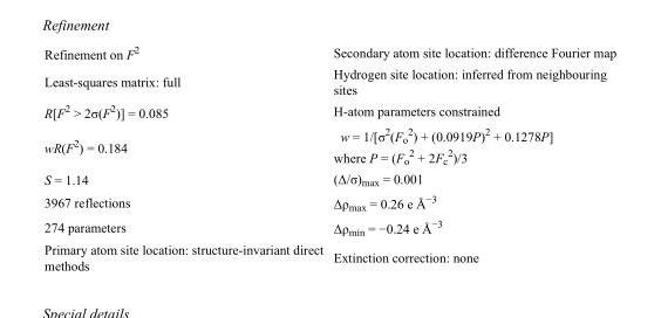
<table><tbody><tr><td>Refinement on F<sup>2</sup></td><td>Secondary atom site location: difference Fourier map</td></tr><tr><td>Least-squares matrix: full</td><td>Hydrogen site location: inferred from neighbouring sites</td></tr><tr><td>R[F<sup>2</sup> &gt; 2σ(F<sup>2</sup>)] = 0.085</td><td>H-atom parameters constrained</td></tr><tr><td>wR(F<sup>2</sup>) = 0.184</td><td>w = 1/[σ<sup>2</sup>(F<sub>o</sub> <sup>2</sup>) + (0.0919P)<sup>2</sup> + 0.1278P] where P = (F<sub>o</sub> <sup>2</sup> + 2F<sub>c</sub> <sup>2</sup>)/3</td></tr><tr><td>S = 1.14</td><td>(Δ/σ)<sub>max</sub> = 0.001</td></tr><tr><td>3967 reflections</td><td>Δρ<sub>max</sub> = 0.26 e Å<sup>−3</sup></td></tr><tr><td>274 parameters</td><td>Δρ<sub>min</sub> = −0.24 e Å<sup>−3</sup></td></tr><tr><td>Primary atom site location: structure-invariant direct methods</td><td>Extinction correction: none</td></tr></tbody></table>